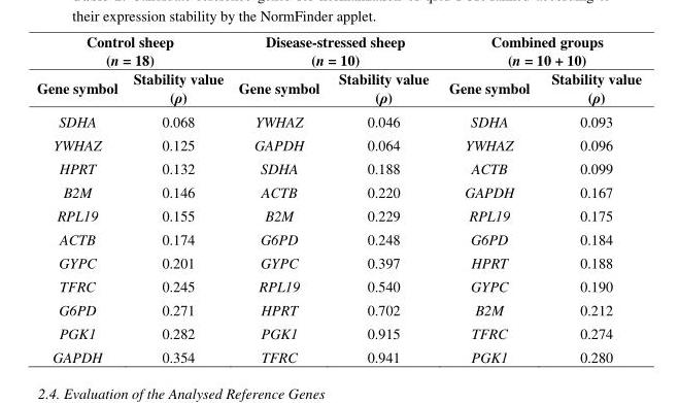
<table><thead><tr><td colspan="2">Control sheep (n = 18)</td><td colspan="2">Disease-stressed sheep (n = 10)</td><td colspan="2">Combined groups (n = 10 + 10)</td></tr><tr><td>Gene symbol</td><td>Stability value (ρ)</td><td>Gene symbol</td><td>Stability value (ρ)</td><td>Gene symbol</td><td>Stability value (ρ)</td></tr></thead><tbody><tr><td>SDHA</td><td>0.068</td><td>YWHAZ</td><td>0.046</td><td>SDHA</td><td>0.093</td></tr><tr><td>YWHAZ</td><td>0.125</td><td>GAPDH</td><td>0.064</td><td>YWHAZ</td><td>0.096</td></tr><tr><td>HPRT</td><td>0.132</td><td>SDHA</td><td>0.188</td><td>ACTB</td><td>0.099</td></tr><tr><td>B2M</td><td>0.146</td><td>ACTB</td><td>0.220</td><td>GAPDH</td><td>0.167</td></tr><tr><td>RPL19</td><td>0.155</td><td>B2M</td><td>0.229</td><td>RPL19</td><td>0.175</td></tr><tr><td>ACTB</td><td>0.174</td><td>G6PD</td><td>0.248</td><td>G6PD</td><td>0.184</td></tr><tr><td>GYPC</td><td>0.201</td><td>GYPC</td><td>0.397</td><td>HPRT</td><td>0.188</td></tr><tr><td>TFRC</td><td>0.245</td><td>RPL19</td><td>0.540</td><td>GYPC</td><td>0.190</td></tr><tr><td>G6PD</td><td>0.271</td><td>HPRT</td><td>0.702</td><td>B2M</td><td>0.212</td></tr><tr><td>PGK1</td><td>0.282</td><td>PGK1</td><td>0.915</td><td>TFRC</td><td>0.274</td></tr><tr><td>GAPDH</td><td>0.354</td><td>TFRC</td><td>0.941</td><td>PGK1</td><td>0.280</td></tr></tbody></table>